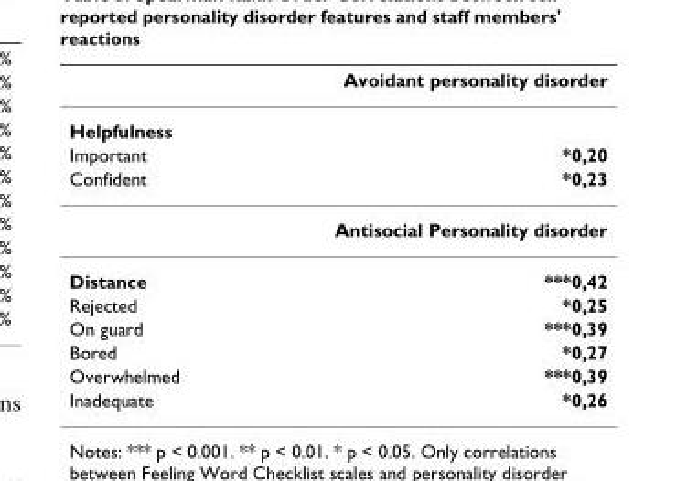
<table><thead><tr><td></td><td>Avoidant personality disorder</td></tr></thead><tbody><tr><td colspan="2">Helpfulness</td></tr><tr><td>Important</td><td>*0,20</td></tr><tr><td rowspan="2">Confident</td><td>*0,23</td></tr><tr><td>Antisocial Personality disorder</td></tr><tr><td>Distance</td><td>***0,42</td></tr><tr><td>Rejected</td><td>*0,25</td></tr><tr><td>On guard</td><td>***0,39</td></tr><tr><td>Bored</td><td>*0,27</td></tr><tr><td>Overwhelmed</td><td>***0,39</td></tr><tr><td>Inadequate</td><td>*0,26</td></tr></tbody></table>